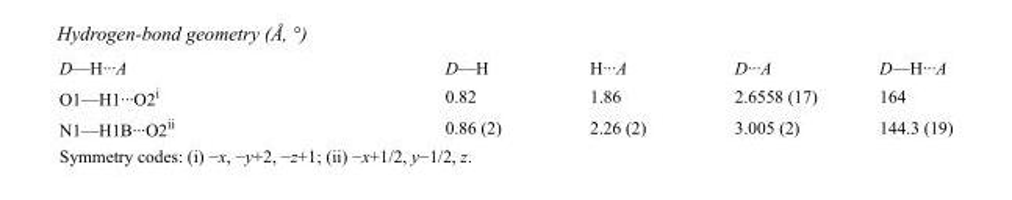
<table><tbody><tr><td>D—H···A</td><td>D—H</td><td>H···A</td><td>D···A</td><td>D—H···A</td></tr><tr><td>O1—H1···O2<sup>i</sup></td><td>0.82</td><td>1.86</td><td>2.6558 (17)</td><td>164</td></tr><tr><td>N1—H1B···O2<sup>ii</sup></td><td>0.86 (2)</td><td>2.26 (2)</td><td>3.005 (2)</td><td>144.3 (19)</td></tr></tbody></table>